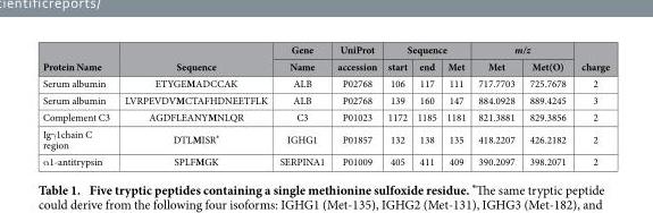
<table><thead><tr><td rowspan="2">Protein Name</td><td rowspan="2">Sequence</td><td rowspan="2">Gene Name</td><td rowspan="2">UniProt accession</td><td colspan="3">Sequence</td><td colspan="2">m/z</td><td rowspan="2">charge</td></tr><tr><td>start</td><td>end</td><td>Met</td><td>Met</td><td>Met(O)</td></tr></thead><tbody><tr><td>Serum albumin</td><td>ETYGEMADCCAK</td><td>ALB</td><td>P02768</td><td>106</td><td>117</td><td>111</td><td>717.7703</td><td>725.7678</td><td>2</td></tr><tr><td>Serum albumin</td><td>LVRPEVDVMCTAFHDNEETFLK</td><td>ALB</td><td>P02768</td><td>139</td><td>160</td><td>147</td><td>884.0928</td><td>889.4245</td><td>3</td></tr><tr><td>Complement C3</td><td>AGDFLEANYMNLQR</td><td>C3</td><td>P01023</td><td>1172</td><td>1185</td><td>1181</td><td>821.3881</td><td>829.3856</td><td>2</td></tr><tr><td>Igγ 1chain C region</td><td>DTLMISR*</td><td>IGHG1</td><td>P01857</td><td>132</td><td>138</td><td>135</td><td>418.2207</td><td>426.2182</td><td>2</td></tr><tr><td>α 1-antitrypsin</td><td>SPLFMGK</td><td>SERPINA1</td><td>P01009</td><td>405</td><td>411</td><td>409</td><td>390.2097</td><td>398.2071</td><td>2</td></tr></tbody></table>